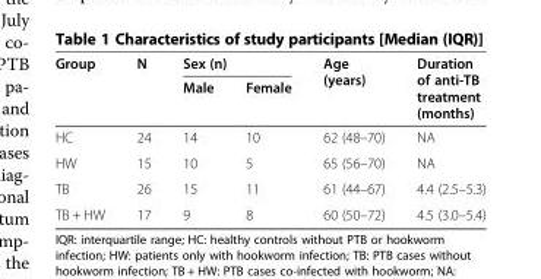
<table><thead><tr><td rowspan="2">Group</td><td rowspan="2">N</td><td colspan="2">Sex (n)</td><td rowspan="2">Age (years)</td><td rowspan="2">Duration of anti-TB treatment (months)</td></tr><tr><td>Male</td><td>Female</td></tr></thead><tbody><tr><td>HC</td><td>24</td><td>14</td><td>10</td><td>62 (48–70)</td><td>NA</td></tr><tr><td>HW</td><td>15</td><td>10</td><td>5</td><td>65 (56–70)</td><td>NA</td></tr><tr><td>TB</td><td>26</td><td>15</td><td>11</td><td>61 (44–67)</td><td>4.4 (2.5–5.3)</td></tr><tr><td>TB + HW</td><td>17</td><td>9</td><td>8</td><td>60 (50–72)</td><td>4.5 (3.0–5.4)</td></tr></tbody></table>